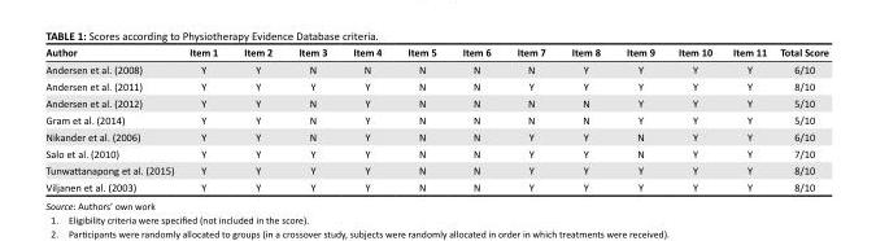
<table><thead><tr><td>Author</td><td>Item 1</td><td>Item 2</td><td>Item 3</td><td>Item 4</td><td>Item 5</td><td>Item 6</td><td>Item 7</td><td>Item 8</td><td>Item 9</td><td>Item 10</td><td>Item 11</td><td>Total Score</td></tr></thead><tbody><tr><td>Andersen et al. (2008)</td><td>Y</td><td>Y</td><td>N</td><td>N</td><td>N</td><td>N</td><td>N</td><td>Y</td><td>Y</td><td>Y</td><td>Y</td><td>6/10</td></tr><tr><td>Andersen et al. (2011)</td><td>Y</td><td>Y</td><td>Y</td><td>Y</td><td>N</td><td>N</td><td>Y</td><td>Y</td><td>Y</td><td>Y</td><td>Y</td><td>8/10</td></tr><tr><td>Andersen et al. (2012)</td><td>Y</td><td>Y</td><td>N</td><td>Y</td><td>N</td><td>N</td><td>N</td><td>N</td><td>Y</td><td>Y</td><td>Y</td><td>5/10</td></tr><tr><td>Gram et al. (2014)</td><td>Y</td><td>Y</td><td>N</td><td>Y</td><td>N</td><td>N</td><td>N</td><td>N</td><td>Y</td><td>Y</td><td>Y</td><td>5/10</td></tr><tr><td>Nikander et al. (2006)</td><td>Y</td><td>Y</td><td>N</td><td>Y</td><td>N</td><td>N</td><td>Y</td><td>Y</td><td>N</td><td>Y</td><td>Y</td><td>6/10</td></tr><tr><td>Salo et al. (2010)</td><td>Y</td><td>Y</td><td>Y</td><td>Y</td><td>N</td><td>N</td><td>Y</td><td>Y</td><td>N</td><td>Y</td><td>Y</td><td>7/10</td></tr><tr><td>Tunwattanapong et al. (2015)</td><td>Y</td><td>Y</td><td>Y</td><td>Y</td><td>N</td><td>N</td><td>Y</td><td>Y</td><td>Y</td><td>Y</td><td>Y</td><td>8/10</td></tr><tr><td>Viljanen et al. (2003)</td><td>Y</td><td>Y</td><td>Y</td><td>Y</td><td>N</td><td>N</td><td>Y</td><td>Y</td><td>Y</td><td>Y</td><td>Y</td><td>8/10</td></tr></tbody></table>